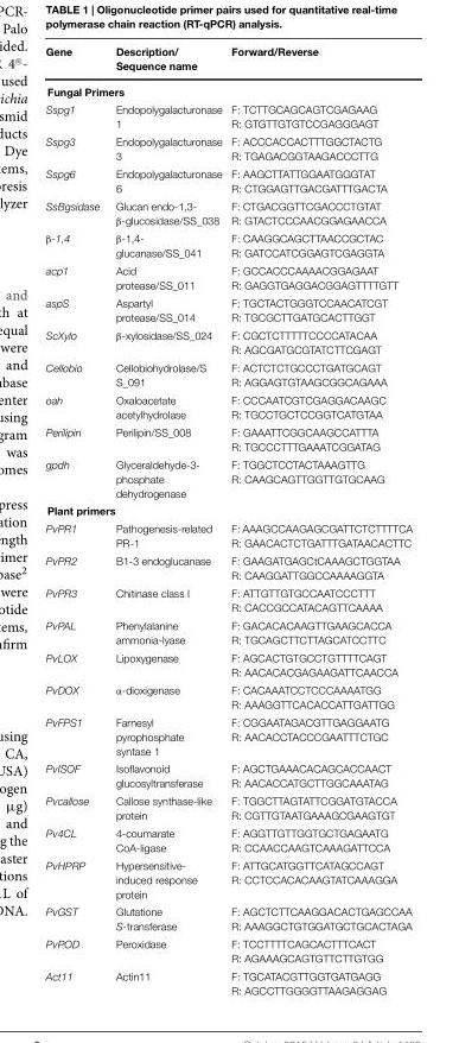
<table><thead><tr><td>Gene</td><td>Description/ Sequence name</td><td>Forward/Reverse</td></tr></thead><tbody><tr><td colspan="3">Fungal Primers</td></tr><tr><td>Sspg1</td><td>Endopolygalacturonase 1</td><td>F: TCTTGCAGCAGTCGAGAAG R: GTGTTGTGTCCGAGGGAGT</td></tr><tr><td>Sspg3</td><td>Endopolygalacturonase 3</td><td>F: ACCCACCACTTTGGCTACTG R: TGAGACGGTAAGACCCTTG</td></tr><tr><td>Sspg6</td><td>Endopolygalacturonase 6</td><td>F: AAGCTTATTGGAATGGGTAT R: CTGGAGTTGACGATTTGACTA</td></tr><tr><td>SsBgsidase</td><td>Glucan endo-1,3- β-glucosidase/SS_038</td><td>F: CTGACGGTTCGACCCTGTAT R: GTACTCCCAACGGAGAACCA</td></tr><tr><td>β-1,4</td><td>β-1,4- glucanase/SS_041</td><td>F: CAAGGCAGCTTAACCGCTAC R: GATCCATCGGAGTCGAGGTA</td></tr><tr><td>acp1</td><td>Acid protease/SS_011</td><td>F: GCCACCCAAAACGGAGAAT R: GAGGTGAGGACGGAGTTTTGTT</td></tr><tr><td>aspS</td><td>Aspartyl protease/SS_014</td><td>F: TGCTACTGGGTCCAACATCGT R: TGCGCTTGATGCACTTGGT</td></tr><tr><td>ScXylo</td><td>β-xylosidase/SS_024</td><td>F: CGCTCTTTTTCCCCATACAA R: AGCGATGCGTATCTTCGAGT</td></tr><tr><td>Cellobio</td><td>Cellobiohydrolase/S S_091</td><td>F: ACTCTCTGCCCTGATGCAGT R: AGGAGTGTAAGCGGCAGAAA</td></tr><tr><td>oah</td><td>Oxaloacetate acetylhydrolase</td><td>F: CCCAATCGTCGAGGACAAGC R: TGCCTGCTCCGGTCATGTAA</td></tr><tr><td>Perilipin</td><td>Perilipin/SS_008</td><td>F: GAAATTCGGCAAGCCATTTA R: TGCCCTTTGAAATCGGATAG</td></tr><tr><td>gpdh</td><td>Glyceraldehyde-3- phosphate dehydrogenase</td><td>F: TGGCTCCTACTAAAGTTG R: CAAGCAGTTGGTTGTGCAAG</td></tr><tr><td colspan="3">Plant primers</td></tr><tr><td>PvPR1</td><td>Pathogenesis-related PR-1</td><td>F: AAAGCCAAGAGCGATTCTCTTTTCA R: GAACACTCTGATTTGATAACACTTC</td></tr><tr><td>PvPR2</td><td>B1-3 endoglucanase</td><td>F: GAAGATGAGCtCAAAGCTGGTAA R: CAAGGATTGGCCAAAAGGTA</td></tr><tr><td>PvPR3</td><td>Chitinase class I</td><td>F: ATTGTTGTGCCAATCCCTTT R: CACCGCCATACAGTTCAAAA</td></tr><tr><td>PvPAL</td><td>Phenylalanine ammonia-lyase</td><td>F: GACACACAAGTTGAAGCACCA R: TGCAGCTTCTTAGCATCCTTC</td></tr><tr><td>PvLOX</td><td>Lipoxygenase</td><td>F: AGCACTGTGCCTGTTTTCAGT R: AACACACGAGAAGATTCAACCA</td></tr><tr><td>PvDOX</td><td>α-dioxigenase</td><td>F: CACAAATCCTCCCAAAATGG R: AAAGGTTCACACCATTGATTGG</td></tr><tr><td>PvFPS1</td><td>Farnesyl pyrophosphate syntase 1</td><td>F: CGGAATAGACGTTGAGGAATG R: AACACCTACCCGAATTTCTGC</td></tr><tr><td>PvISOF</td><td>Isoflavonoid glucosyltransferase</td><td>F: AGCTGAAACACAGCACCAACT R: AACACCATGCTTGGCAAATAG</td></tr><tr><td>Pvcallose</td><td>Callose synthase-like protein</td><td>F: TGGCTTAGTATTCGGATGTACCA R: CGTTGTAATGAAAGCGAAGTGT</td></tr><tr><td>Pv4CL</td><td>4-coumarate CoA-ligase</td><td>F: AGGTTGTTGGTGCTGAGAATG R: CCAACCAAGTCAAAGATTCCA</td></tr><tr><td>PvHPRP</td><td>Hypersensitive- induced response protein</td><td>F: ATTGCATGGTTCATAGCCAGT R: CCTCCACACAAGTATCAAAGGA</td></tr><tr><td>PvGST</td><td>Glutatione S-transferase</td><td>F: AGCTCTTCAAGGACACTGAGCCAA R: AAAGGCTGTGGATGCTGCACTAGA</td></tr><tr><td>PvPOD</td><td>Peroxidase</td><td>F: TCCTTTTCAGCACTTTCACT R: AGAAAGCAGTGTTCTTGTGG</td></tr><tr><td>Act11</td><td>Actin11</td><td>F: TGCATACGTTGGTGATGAGG R: AGCCTTGGGGTTAAGAGGAG</td></tr></tbody></table>